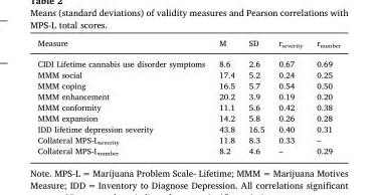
<table><thead><tr><td>Measure</td><td>M</td><td>SD</td><td>r<sub>severity</sub></td><td>r<sub>number</sub></td></tr></thead><tbody><tr><td>CIDI Lifetime cannabis use disorder symptoms</td><td>8.6</td><td>2.6</td><td>0.67</td><td>0.69</td></tr><tr><td>MMM social</td><td>17.4</td><td>5.2</td><td>0.24</td><td>0.25</td></tr><tr><td>MMM coping</td><td>16.5</td><td>5.7</td><td>0.54</td><td>0.50</td></tr><tr><td>MMM enhancement</td><td>20.2</td><td>3.9</td><td>0.19</td><td>0.20</td></tr><tr><td>MMM conformity</td><td>11.1</td><td>5.6</td><td>0.42</td><td>0.38</td></tr><tr><td>MMM expansion</td><td>14.2</td><td>5.8</td><td>0.26</td><td>0.28</td></tr><tr><td>IDD lifetime depression severity</td><td>43.8</td><td>16.5</td><td>0.40</td><td>0.31</td></tr><tr><td>Collateral MPS-L<sub>severity</sub></td><td>11.8</td><td>8.3</td><td>0.33</td><td>–</td></tr><tr><td>Collateral MPS-L<sub>number</sub></td><td>8.2</td><td>4.6</td><td>–</td><td>0.29</td></tr></tbody></table>